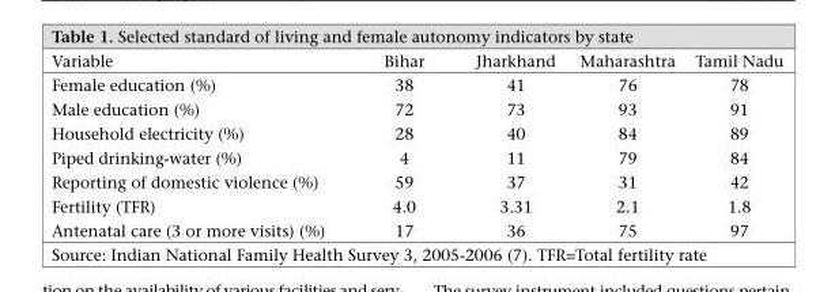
<table><thead><tr><td>Variable</td><td>Bihar</td><td>Jharkhand</td><td>Maharashtra</td><td>Tamil Nadu</td></tr></thead><tbody><tr><td>Female education (%)</td><td>38</td><td>41</td><td>76</td><td>78</td></tr><tr><td>Male education (%)</td><td>72</td><td>73</td><td>93</td><td>91</td></tr><tr><td>Household electricity (%)</td><td>28</td><td>40</td><td>84</td><td>89</td></tr><tr><td>Piped drinking-water (%)</td><td>4</td><td>11</td><td>79</td><td>84</td></tr><tr><td>Reporting of domestic violence (%)</td><td>59</td><td>37</td><td>31</td><td>42</td></tr><tr><td>Fertility (TFR)</td><td>4.0</td><td>3.31</td><td>2.1</td><td>1.8</td></tr><tr><td>Antenatal care (3 or more visits) (%)</td><td>17</td><td>36</td><td>75</td><td>97</td></tr></tbody></table>